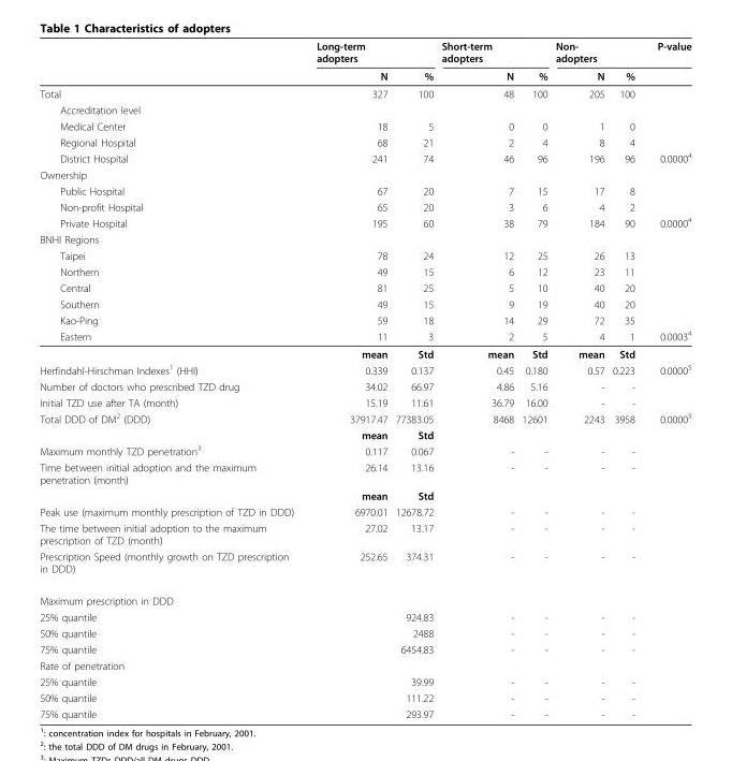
<table><thead><tr><td rowspan="2"></td><td rowspan="2">Long-term adopters N</td><td rowspan="2">%</td><td rowspan="2">Short-term adopters N</td><td rowspan="2">%</td><td rowspan="2">Non- adopters N</td><td rowspan="2">%</td><td rowspan="2">P-value</td></tr><tr></tr></thead><tbody><tr><td>Total</td><td>327</td><td>100</td><td>48</td><td>100</td><td>205</td><td>100</td><td></td></tr><tr><td colspan="8">Accreditation level</td></tr><tr><td>Medical Center</td><td>18</td><td>5</td><td>0</td><td>0</td><td>1</td><td>0</td><td></td></tr><tr><td>Regional Hospital</td><td>68</td><td>21</td><td>2</td><td>4</td><td>8</td><td>4</td><td></td></tr><tr><td>District Hospital</td><td>241</td><td>74</td><td>46</td><td>96</td><td>196</td><td>96</td><td>0.0000<sup>4</sup></td></tr><tr><td colspan="8">Ownership</td></tr><tr><td>Public Hospital</td><td>67</td><td>20</td><td>7</td><td>15</td><td>17</td><td>8</td><td></td></tr><tr><td>Non-profit Hospital</td><td>65</td><td>20</td><td>3</td><td>6</td><td>4</td><td>2</td><td></td></tr><tr><td>Private Hospital</td><td>195</td><td>60</td><td>38</td><td>79</td><td>184</td><td>90</td><td>0.0000<sup>4</sup></td></tr><tr><td colspan="8">BNHI Regions</td></tr><tr><td>Taipei</td><td>78</td><td>24</td><td>12</td><td>25</td><td>26</td><td>13</td><td></td></tr><tr><td>Northern</td><td>49</td><td>15</td><td>6</td><td>12</td><td>23</td><td>11</td><td></td></tr><tr><td>Central</td><td>81</td><td>25</td><td>5</td><td>10</td><td>40</td><td>20</td><td></td></tr><tr><td>Southern</td><td>49</td><td>15</td><td>9</td><td>19</td><td>40</td><td>20</td><td></td></tr><tr><td>Kao-Ping</td><td>59</td><td>18</td><td>14</td><td>29</td><td>72</td><td>35</td><td></td></tr><tr><td rowspan="2">Eastern</td><td>11</td><td>3</td><td>2</td><td>5</td><td>4</td><td>1</td><td>0.0003<sup>4</sup></td></tr><tr><td>mean</td><td>Std</td><td>mean</td><td>Std</td><td>mean</td><td>Std</td><td></td></tr><tr><td>Herfindahl-Hirschman Indexes<sup>1</sup> (HHI)</td><td>0.339</td><td>0.137</td><td>0.45</td><td>0.180</td><td>0.57</td><td>0.223</td><td>0.0000<sup>5</sup></td></tr><tr><td>Number of doctors who prescribed TZD drug</td><td>34.02</td><td>66.97</td><td>4.86</td><td>5.16</td><td>-</td><td>-</td><td></td></tr><tr><td>Initial TZD use after TA (month)</td><td>15.19</td><td>11.61</td><td>36.79</td><td>16.00</td><td>-</td><td>-</td><td></td></tr><tr><td rowspan="2">Total DDD of DM<sup>2</sup> (DDD)</td><td>37917.47</td><td>77383.05</td><td>8468</td><td>12601</td><td>2243</td><td>3958</td><td>0.0000<sup>5</sup></td></tr><tr><td>mean</td><td>Std</td><td></td><td></td><td></td><td></td><td></td></tr><tr><td>Maximum monthly TZD penetration<sup>3</sup></td><td>0.117</td><td>0.067</td><td>-</td><td>-</td><td>-</td><td>-</td><td></td></tr><tr><td rowspan="2">Time between initial adoption and the maximum penetration (month)</td><td>26.14</td><td>13.16</td><td>-</td><td>-</td><td>-</td><td>-</td><td></td></tr><tr><td>mean</td><td>Std</td><td></td><td></td><td></td><td></td><td></td></tr><tr><td>Peak use (maximum monthly prescription of TZD in DDD)</td><td>6970.01</td><td>12678.72</td><td>-</td><td>-</td><td>-</td><td>-</td><td></td></tr><tr><td>The time between initial adoption to the maximum prescription of TZD (month)</td><td>27.02</td><td>13.17</td><td>-</td><td>-</td><td>-</td><td>-</td><td></td></tr><tr><td>Prescription Speed (monthly growth on TZD prescription in DDD)</td><td>252.65</td><td>374.31</td><td>-</td><td>-</td><td>-</td><td>-</td><td></td></tr><tr><td colspan="8">Maximum prescription in DDD</td></tr><tr><td>25% quantile</td><td></td><td>924.83</td><td>-</td><td>-</td><td>-</td><td>-</td><td></td></tr><tr><td>50% quantile</td><td></td><td>2488</td><td>-</td><td>-</td><td>-</td><td>-</td><td></td></tr><tr><td>75% quantile</td><td></td><td>6454.83</td><td>-</td><td>-</td><td>-</td><td>-</td><td></td></tr><tr><td colspan="8">Rate of penetration</td></tr><tr><td>25% quantile</td><td></td><td>39.99</td><td>-</td><td>-</td><td>-</td><td>-</td><td></td></tr><tr><td>50% quantile</td><td></td><td>111.22</td><td>-</td><td>-</td><td>-</td><td>-</td><td></td></tr><tr><td>75% quantile</td><td></td><td>293.97</td><td>-</td><td>-</td><td>-</td><td>-</td><td></td></tr></tbody></table>